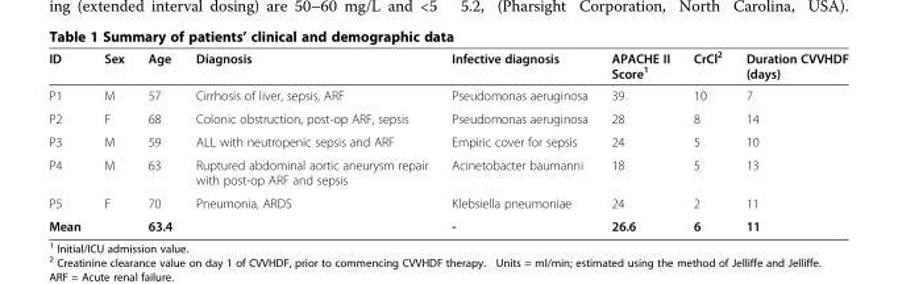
<table><thead><tr><td>ID</td><td>Sex</td><td>Age</td><td>Diagnosis</td><td>Infective diagnosis</td><td>APACHE II Score<sup>1</sup></td><td>CrCl<sup>2</sup></td><td>Duration CVVHDF (days)</td></tr></thead><tbody><tr><td>P1</td><td>M</td><td>57</td><td>Cirrhosis of liver, sepsis, ARF</td><td>Pseudomonas aeruginosa</td><td>39</td><td>10</td><td>7</td></tr><tr><td>P2</td><td>F</td><td>68</td><td>Colonic obstruction, post-op ARF, sepsis</td><td>Pseudomonas aeruginosa</td><td>28</td><td>8</td><td>14</td></tr><tr><td>P3</td><td>M</td><td>59</td><td>ALL with neutropenic sepsis and ARF</td><td>Empiric cover for sepsis</td><td>24</td><td>5</td><td>10</td></tr><tr><td>P4</td><td>M</td><td>63</td><td>Ruptured abdominal aortic aneurysm repair with post-op ARF and sepsis</td><td>Acinetobacter baumanni</td><td>18</td><td>5</td><td>13</td></tr><tr><td>P5</td><td>F</td><td>70</td><td>Pneumonia, ARDS</td><td>Klebsiella pneumoniae</td><td>24</td><td>2</td><td>11</td></tr><tr><td>Mean</td><td></td><td>63.4</td><td></td><td>-</td><td>26.6</td><td>6</td><td>11</td></tr></tbody></table>